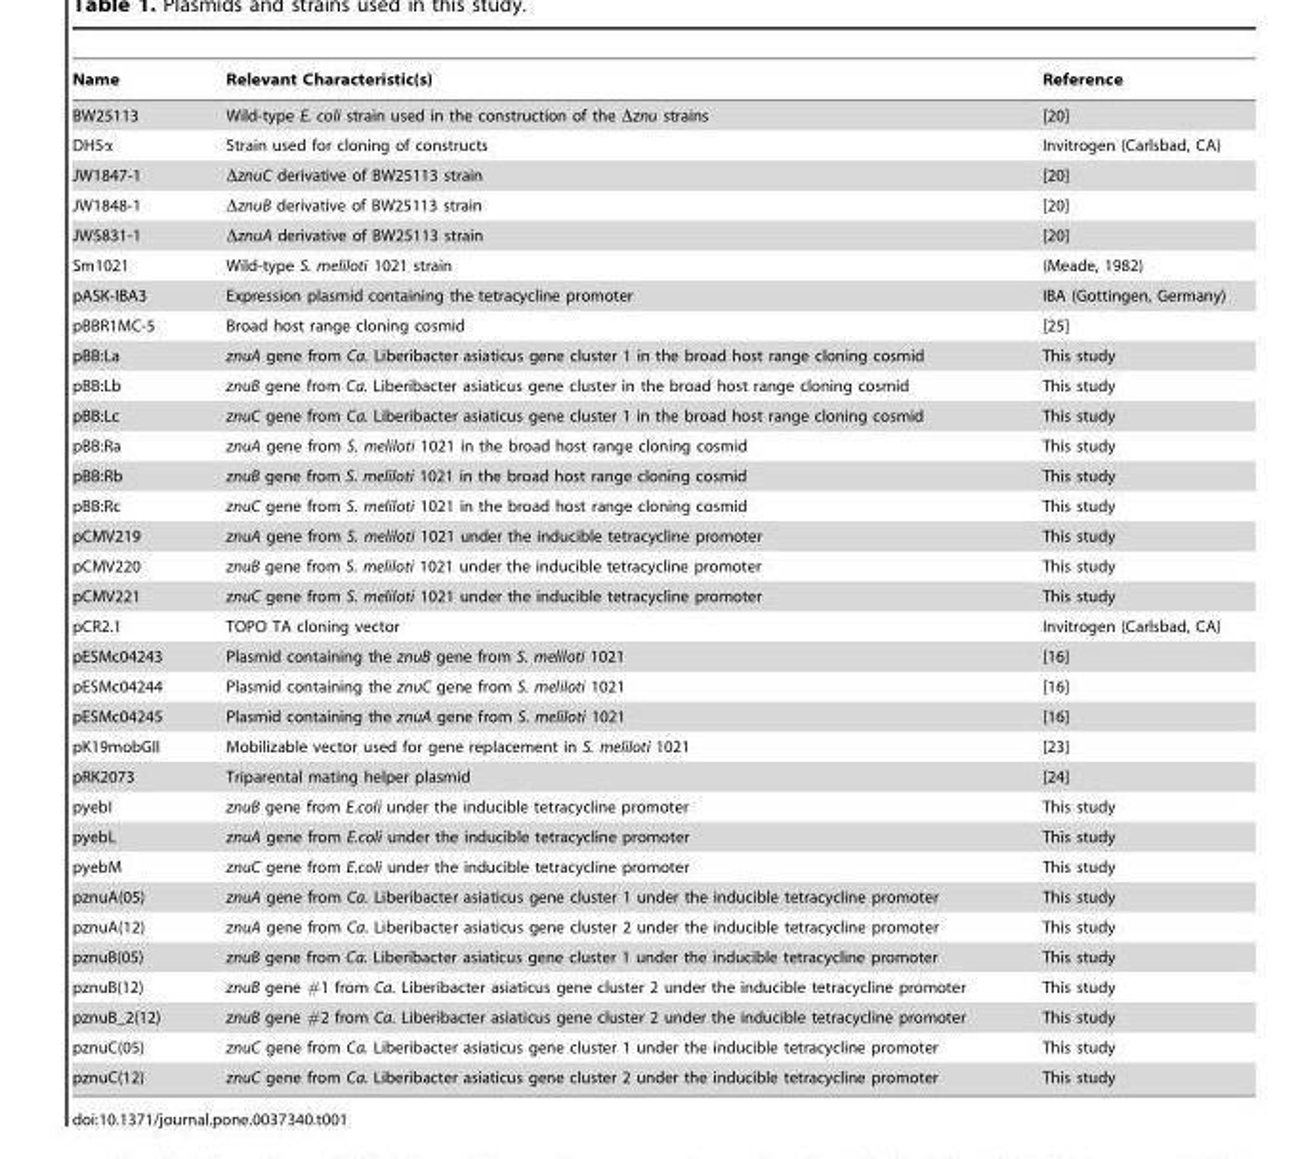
<table><thead><tr><td>Name</td><td>Relevant Characteristic(s)</td><td>Reference</td></tr></thead><tbody><tr><td>BW25113</td><td>Wild-type E. coli strain used in the construction of the Δznu strains</td><td>[20]</td></tr><tr><td>DH5α</td><td>Strain used for cloning of constructs</td><td>Invitrogen (Carlsbad, CA)</td></tr><tr><td>JW1847-1</td><td>ΔznuC derivative of BW25113 strain</td><td>[20]</td></tr><tr><td>JW1848-1</td><td>ΔznuB derivative of BW25113 strain</td><td>[20]</td></tr><tr><td>JW5831-1</td><td>ΔznuA derivative of BW25113 strain</td><td>[20]</td></tr><tr><td>Sm1021</td><td>Wild-type S. meliloti 1021 strain</td><td>(Meade, 1982)</td></tr><tr><td>pASK-IBA3</td><td>Expression plasmid containing the tetracycline promoter</td><td>IBA (Gottingen, Germany)</td></tr><tr><td>pBBR1MC-5</td><td>Broad host range cloning cosmid</td><td>[25]</td></tr><tr><td>pBB:La</td><td>znuA gene from Ca. Liberibacter asiaticus gene cluster 1 in the broad host range cloning cosmid</td><td>This study</td></tr><tr><td>pBB:Lb</td><td>znuB gene from Ca. Liberibacter asiaticus gene cluster in the broad host range cloning cosmid</td><td>This study</td></tr><tr><td>pBB:Lc</td><td>znuC gene from Ca. Liberibacter asiaticus gene cluster 1 in the broad host range cloning cosmid</td><td>This study</td></tr><tr><td>pBB:Ra</td><td>znuA gene from S. meliloti 1021 in the broad host range cloning cosmid</td><td>This study</td></tr><tr><td>pBB:Rb</td><td>znuB gene from S. meliloti 1021 in the broad host range cloning cosmid</td><td>This study</td></tr><tr><td>pBB:Rc</td><td>znuC gene from S. meliloti 1021 in the broad host range cloning cosmid</td><td>This study</td></tr><tr><td>pCMV219</td><td>znuA gene from S. meliloti 1021 under the inducible tetracycline promoter</td><td>This study</td></tr><tr><td>pCMV220</td><td>znuB gene from S. meliloti 1021 under the inducible tetracycline promoter</td><td>This study</td></tr><tr><td>pCMV221</td><td>znuC gene from S. meliloti 1021 under the inducible tetracycline promoter</td><td>This study</td></tr><tr><td>pCR2.1</td><td>TOPO TA cloning vector</td><td>Invitrogen (Carlsbad, CA)</td></tr><tr><td>pESMc04243</td><td>Plasmid containing the znuB gene from S. meliloti 1021</td><td>[16]</td></tr><tr><td>pESMc04244</td><td>Plasmid containing the znuC gene from S. meliloti 1021</td><td>[16]</td></tr><tr><td>pESMc04245</td><td>Plasmid containing the znuA gene from S. meliloti 1021</td><td>[16]</td></tr><tr><td>pK19mobGII</td><td>Mobilizable vector used for gene replacement in S. meliloti 1021</td><td>[23]</td></tr><tr><td>pRK2073</td><td>Triparental mating helper plasmid</td><td>[24]</td></tr><tr><td>pyebI</td><td>znuB gene from E.coli under the inducible tetracycline promoter</td><td>This study</td></tr><tr><td>pyebL</td><td>znuA gene from E.coli under the inducible tetracycline promoter</td><td>This study</td></tr><tr><td>pyebM</td><td>znuC gene from E.coli under the inducible tetracycline promoter</td><td>This study</td></tr><tr><td>pznuA(05)</td><td>znuA gene from Ca. Liberibacter asiaticus gene cluster 1 under the inducible tetracycline promoter</td><td>This study</td></tr><tr><td>pznuA(12)</td><td>znuA gene from Ca. Liberibacter asiaticus gene cluster 2 under the inducible tetracycline promoter</td><td>This study</td></tr><tr><td>pznuB(05)</td><td>znuB gene from Ca. Liberibacter asiaticus gene cluster 1 under the inducible tetracycline promoter</td><td>This study</td></tr><tr><td>pznuB(12)</td><td>znuB gene #1 from Ca. Liberibacter asiaticus gene cluster 2 under the inducible tetracycline promoter</td><td>This study</td></tr><tr><td>pznuB_2(12)</td><td>znuB gene #2 from Ca. Liberibacter asiaticus gene cluster 2 under the inducible tetracycline promoter</td><td>This study</td></tr><tr><td>pznuC(05)</td><td>znuC gene from Ca. Liberibacter asiaticus gene cluster 1 under the inducible tetracycline promoter</td><td>This study</td></tr><tr><td>pznuC(12)</td><td>znuC gene from Ca. Liberibacter asiaticus gene cluster 2 under the inducible tetracycline promoter</td><td>This study</td></tr></tbody></table>